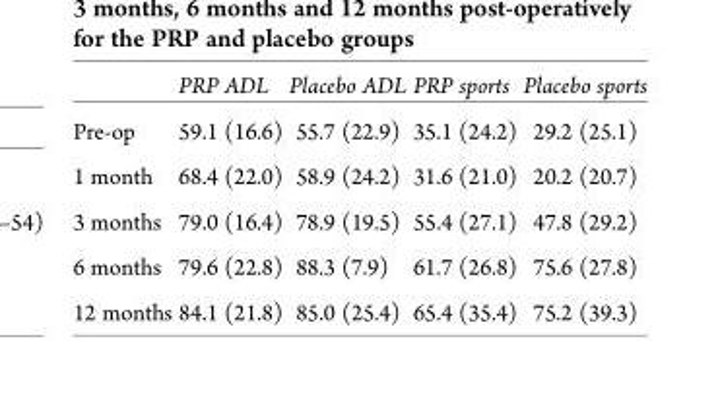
<table><thead><tr><td></td><td>PRP ADL</td><td>Placebo ADL</td><td>PRP sports</td><td>Placebo sports</td></tr></thead><tbody><tr><td>Pre-op</td><td>59.1 (16.6)</td><td>55.7 (22.9)</td><td>35.1 (24.2)</td><td>29.2 (25.1)</td></tr><tr><td>1 month</td><td>68.4 (22.0)</td><td>58.9 (24.2)</td><td>31.6 (21.0)</td><td>20.2 (20.7)</td></tr><tr><td>3 months</td><td>79.0 (16.4)</td><td>78.9 (19.5)</td><td>55.4 (27.1)</td><td>47.8 (29.2)</td></tr><tr><td>6 months</td><td>79.6 (22.8)</td><td>88.3 (7.9)</td><td>61.7 (26.8)</td><td>75.6 (27.8)</td></tr><tr><td>12 months</td><td>84.1 (21.8)</td><td>85.0 (25.4)</td><td>65.4 (35.4)</td><td>75.2 (39.3)</td></tr></tbody></table>